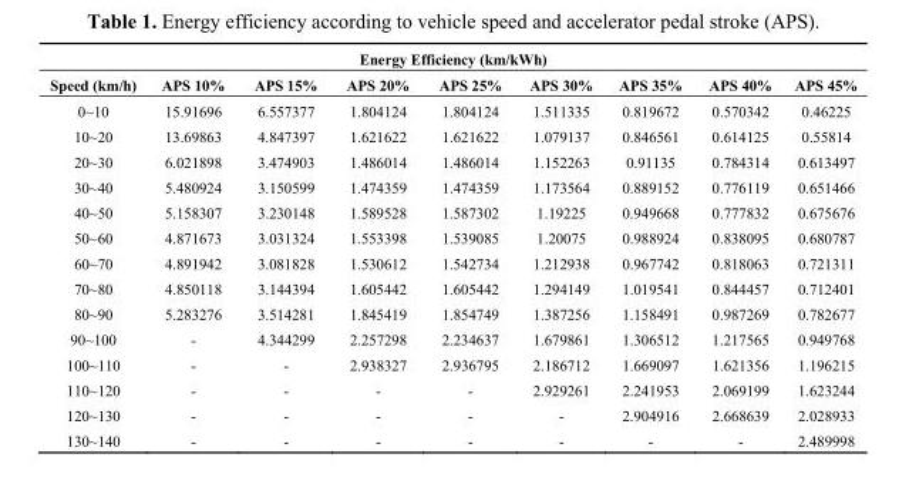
<table><thead><tr><td colspan="9">Energy Efficiency (km/kWh)</td></tr><tr><td>Speed (km/h)</td><td>APS 10%</td><td>APS 15%</td><td>APS 20%</td><td>APS 25%</td><td>APS 30%</td><td>APS 35%</td><td>APS 40%</td><td>APS 45%</td></tr></thead><tbody><tr><td>0~10</td><td>15.91696</td><td>6.557377</td><td>1.804124</td><td>1.804124</td><td>1.511335</td><td>0.819672</td><td>0.570342</td><td>0.46225</td></tr><tr><td>10~20</td><td>13.69863</td><td>4.847397</td><td>1.621622</td><td>1.621622</td><td>1.079137</td><td>0.846561</td><td>0.614125</td><td>0.55814</td></tr><tr><td>20~30</td><td>6.021898</td><td>3.474903</td><td>1.486014</td><td>1.486014</td><td>1.152263</td><td>0.91135</td><td>0.784314</td><td>0.613497</td></tr><tr><td>30~40</td><td>5.480924</td><td>3.150599</td><td>1.474359</td><td>1.474359</td><td>1.173564</td><td>0.889152</td><td>0.776119</td><td>0.651466</td></tr><tr><td>40~50</td><td>5.158307</td><td>3.230148</td><td>1.589528</td><td>1.587302</td><td>1.19225</td><td>0.949668</td><td>0.777832</td><td>0.675676</td></tr><tr><td>50~60</td><td>4.871673</td><td>3.031324</td><td>1.553398</td><td>1.539085</td><td>1.20075</td><td>0.988924</td><td>0.838095</td><td>0.680787</td></tr><tr><td>60~70</td><td>4.891942</td><td>3.081828</td><td>1.530612</td><td>1.542734</td><td>1.212938</td><td>0.967742</td><td>0.818063</td><td>0.721311</td></tr><tr><td>70~80</td><td>4.850118</td><td>3.144394</td><td>1.605442</td><td>1.605442</td><td>1.294149</td><td>1.019541</td><td>0.844457</td><td>0.712401</td></tr><tr><td>80~90</td><td>5.283276</td><td>3.514281</td><td>1.845419</td><td>1.854749</td><td>1.387256</td><td>1.158491</td><td>0.987269</td><td>0.782677</td></tr><tr><td>90~100</td><td>-</td><td>4.344299</td><td>2.257298</td><td>2.234637</td><td>1.679861</td><td>1.306512</td><td>1.217565</td><td>0.949768</td></tr><tr><td>100~110</td><td>-</td><td>-</td><td>2.938327</td><td>2.936795</td><td>2.186712</td><td>1.669097</td><td>1.621356</td><td>1.196215</td></tr><tr><td>110~120</td><td>-</td><td>-</td><td>-</td><td>-</td><td>2.929261</td><td>2.241953</td><td>2.069199</td><td>1.623244</td></tr><tr><td>120~130</td><td>-</td><td>-</td><td>-</td><td>-</td><td>-</td><td>2.904916</td><td>2.668639</td><td>2.028933</td></tr><tr><td>130~140</td><td>-</td><td>-</td><td>-</td><td>-</td><td>-</td><td>-</td><td>-</td><td>2.489998</td></tr></tbody></table>